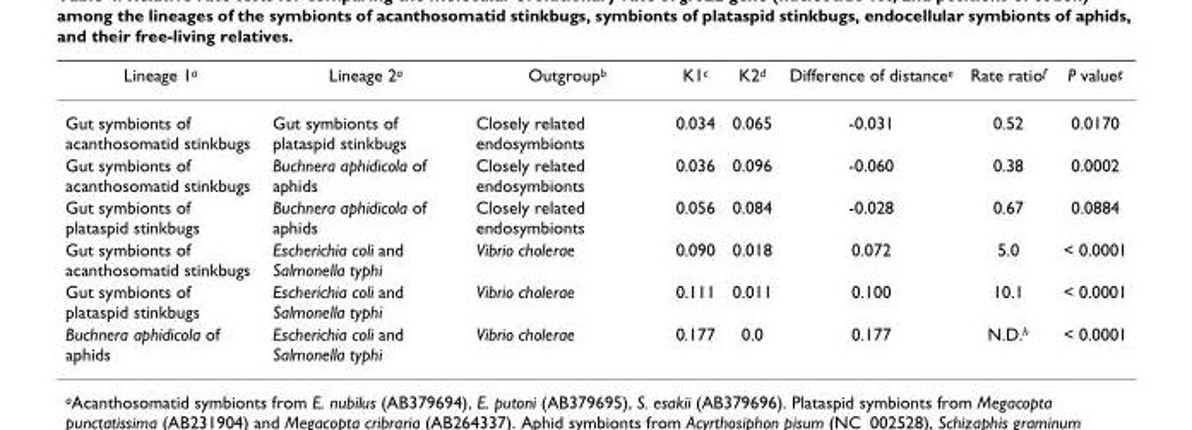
<table><thead><tr><td>Lineage 1<sup>a</sup></td><td>Lineage 2<sup>a</sup></td><td>Outgroup<sup>b</sup></td><td>K1<sup>c</sup></td><td>K2<sup>d</sup></td><td>Difference of distance<sup>e</sup></td><td>Rate ratio<sup>f</sup></td><td>P value<sup>g</sup></td></tr></thead><tbody><tr><td>Gut symbionts of acanthosomatid stinkbugs</td><td>Gut symbionts of plataspid stinkbugs</td><td>Closely related endosymbionts</td><td>0.034</td><td>0.065</td><td>-0.031</td><td>0.52</td><td>0.0170</td></tr><tr><td>Gut symbionts of acanthosomatid stinkbugs</td><td>Buchnera aphidicola of aphids</td><td>Closely related endosymbionts</td><td>0.036</td><td>0.096</td><td>-0.060</td><td>0.38</td><td>0.0002</td></tr><tr><td>Gut symbionts of plataspid stinkbugs</td><td>Buchnera aphidicola of aphids</td><td>Closely related endosymbionts</td><td>0.056</td><td>0.084</td><td>-0.028</td><td>0.67</td><td>0.0884</td></tr><tr><td>Gut symbionts of acanthosomatid stinkbugs</td><td>Escherichia coli and Salmonella typhi</td><td>Vibrio cholerae</td><td>0.090</td><td>0.018</td><td>0.072</td><td>5.0</td><td>&lt; 0.0001</td></tr><tr><td>Gut symbionts of plataspid stinkbugs</td><td>Escherichia coli and Salmonella typhi</td><td>Vibrio cholerae</td><td>0.111</td><td>0.011</td><td>0.100</td><td>10.1</td><td>&lt; 0.0001</td></tr><tr><td>Buchnera aphidicola of aphids</td><td>Escherichia coli and Salmonella typhi</td><td>Vibrio cholerae</td><td>0.177</td><td>0.0</td><td>0.177</td><td>N.D.<sup>h</sup></td><td>&lt; 0.0001</td></tr></tbody></table>